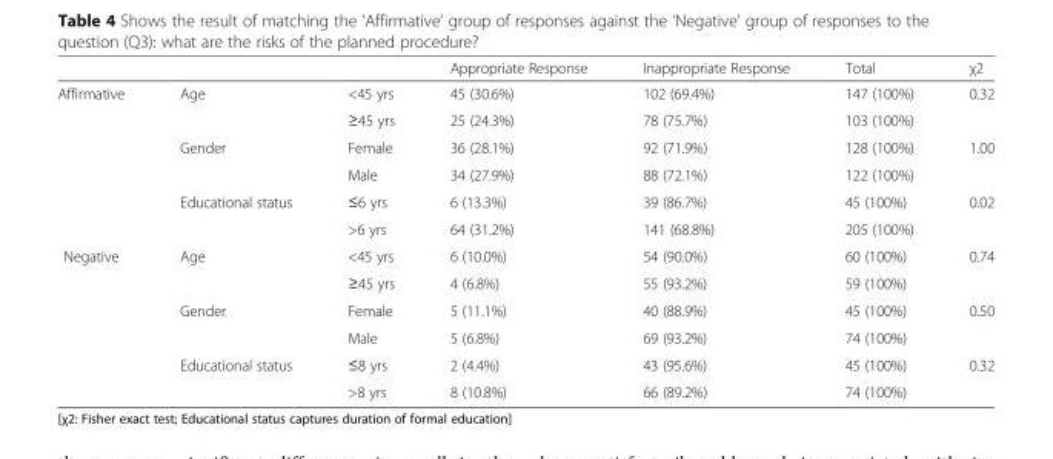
<table><thead><tr><td></td><td></td><td></td><td>Appropriate Response</td><td>Inappropriate Response</td><td>Total</td><td>χ2</td></tr></thead><tbody><tr><td rowspan="6">Affirmative</td><td rowspan="2">Age</td><td>&lt;45 yrs</td><td>45 (30.6%)</td><td>102 (69.4%)</td><td>147 (100%)</td><td rowspan="2">0.32</td></tr><tr><td>≥45 yrs</td><td>25 (24.3%)</td><td>78 (75.7%)</td><td>103 (100%)</td></tr><tr><td rowspan="2">Gender</td><td>Female</td><td>36 (28.1%)</td><td>92 (71.9%)</td><td>128 (100%)</td><td rowspan="2">1.00</td></tr><tr><td>Male</td><td>34 (27.9%)</td><td>88 (72.1%)</td><td>122 (100%)</td></tr><tr><td rowspan="2">Educational status</td><td>≤6 yrs</td><td>6 (13.3%)</td><td>39 (86.7%)</td><td>45 (100%)</td><td rowspan="2">0.02</td></tr><tr><td>&gt;6 yrs</td><td>64 (31.2%)</td><td>141 (68.8%)</td><td>205 (100%)</td></tr><tr><td rowspan="6">Negative</td><td rowspan="2">Age</td><td>&lt;45 yrs</td><td>6 (10.0%)</td><td>54 (90.0%)</td><td>60 (100%)</td><td rowspan="2">0.74</td></tr><tr><td>≥45 yrs</td><td>4 (6.8%)</td><td>55 (93.2%)</td><td>59 (100%)</td></tr><tr><td rowspan="2">Gender</td><td>Female</td><td>5 (11.1%)</td><td>40 (88.9%)</td><td>45 (100%)</td><td rowspan="2">0.50</td></tr><tr><td>Male</td><td>5 (6.8%)</td><td>69 (93.2%)</td><td>74 (100%)</td></tr><tr><td rowspan="2">Educational status</td><td>≤8 yrs</td><td>2 (4.4%)</td><td>43 (95.6%)</td><td>45 (100%)</td><td rowspan="2">0.32</td></tr><tr><td>&gt;8 yrs</td><td>8 (10.8%)</td><td>66 (89.2%)</td><td>74 (100%)</td></tr></tbody></table>